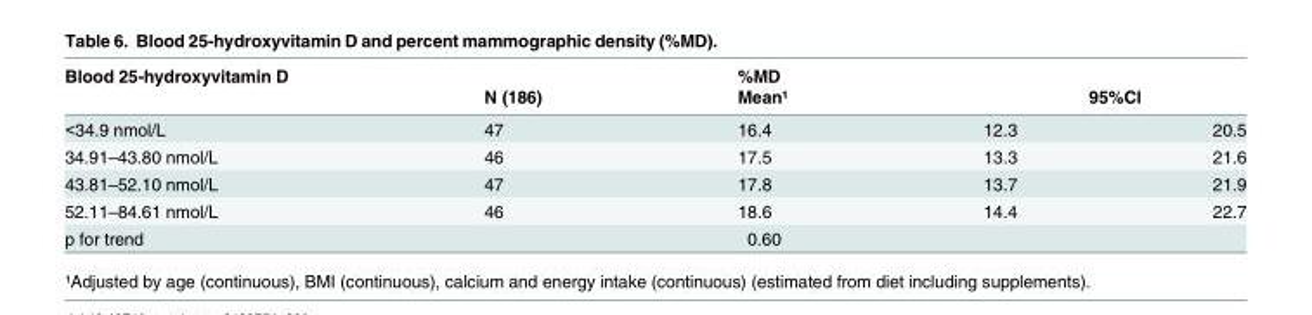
<table><thead><tr><td rowspan="2">Blood 25-hydroxyvitamin D</td><td rowspan="2">N (186)</td><td rowspan="2">%MD Mean¹</td><td></td><td></td></tr><tr><td colspan="2">95%Cl</td></tr></thead><tbody><tr><td>&lt;34.9 nmol/L</td><td>47</td><td>16.4</td><td>12.3</td><td>20.5</td></tr><tr><td>34.91–43.80 nmol/L</td><td>46</td><td>17.5</td><td>13.3</td><td>21.6</td></tr><tr><td>43.81–52.10 nmol/L</td><td>47</td><td>17.8</td><td>13.7</td><td>21.9</td></tr><tr><td>52.11–84.61 nmol/L</td><td>46</td><td>18.6</td><td>14.4</td><td>22.7</td></tr><tr><td>p for trend</td><td></td><td>0.60</td><td></td><td></td></tr></tbody></table>